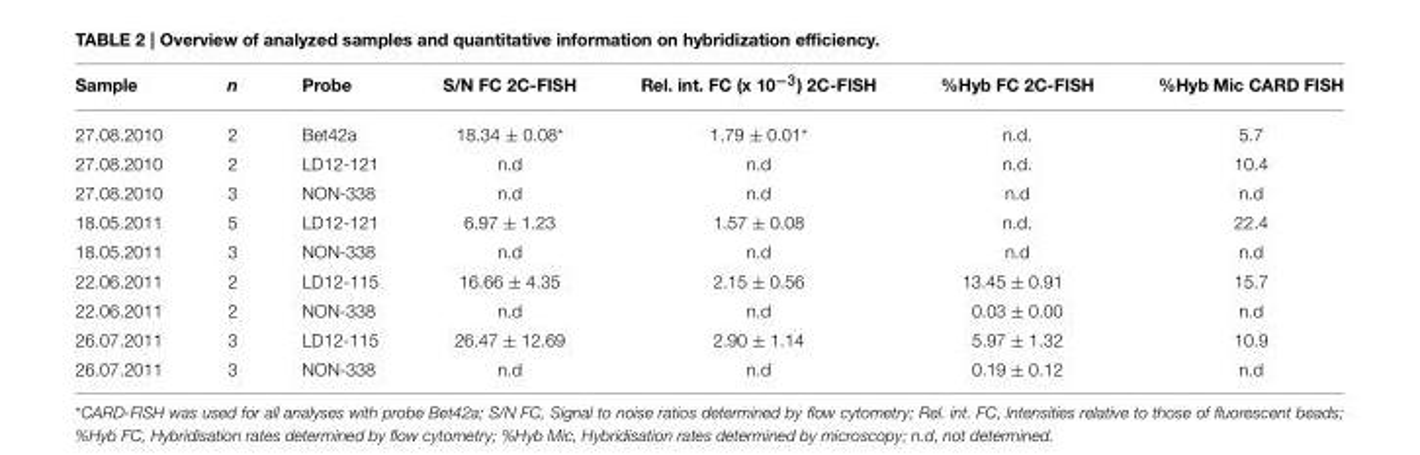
<table><thead><tr><td>Sample</td><td>n</td><td>Probe</td><td>S/N FC 2C-FISH</td><td>Rel. int. FC (x 10<sup>−3</sup>) 2C-FISH</td><td>%Hyb FC 2C-FISH</td><td>%Hyb Mic CARD FISH</td></tr></thead><tbody><tr><td>27.08.2010</td><td>2</td><td>Bet42a</td><td>18.34 ± 0.08*</td><td>1.79 ± 0.01*</td><td>n.d.</td><td>5.7</td></tr><tr><td>27.08.2010</td><td>2</td><td>LD12-121</td><td>n.d</td><td>n.d</td><td>n.d.</td><td>10.4</td></tr><tr><td>27.08.2010</td><td>3</td><td>NON-338</td><td>n.d</td><td>n.d</td><td>n.d</td><td>n.d</td></tr><tr><td>18.05.2011</td><td>5</td><td>LD12-121</td><td>6.97 ± 1.23</td><td>1.57 ± 0.08</td><td>n.d.</td><td>22.4</td></tr><tr><td>18.05.2011</td><td>3</td><td>NON-338</td><td>n.d</td><td>n.d</td><td>n.d</td><td>n.d</td></tr><tr><td>22.06.2011</td><td>2</td><td>LD12-115</td><td>16.66 ± 4.35</td><td>2.15 ± 0.56</td><td>13.45 ± 0.91</td><td>15.7</td></tr><tr><td>22.06.2011</td><td>2</td><td>NON-338</td><td>n.d</td><td>n.d</td><td>0.03 ± 0.00</td><td>n.d</td></tr><tr><td>26.07.2011</td><td>3</td><td>LD12-115</td><td>26.47 ± 12.69</td><td>2.90 ± 1.14</td><td>5.97 ± 1.32</td><td>10.9</td></tr><tr><td>26.07.2011</td><td>3</td><td>NON-338</td><td>n.d</td><td>n.d</td><td>0.19 ± 0.12</td><td>n.d</td></tr></tbody></table>